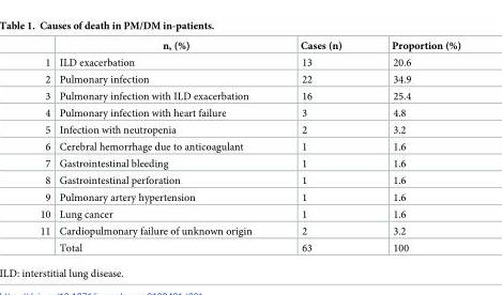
<table><thead><tr><td></td><td>n, (%)</td><td>Cases (n)</td><td>Proportion (%)</td></tr></thead><tbody><tr><td>1</td><td>ILD exacerbation</td><td>13</td><td>20.6</td></tr><tr><td>2</td><td>Pulmonary infection</td><td>22</td><td>34.9</td></tr><tr><td>3</td><td>Pulmonary infection with ILD exacerbation</td><td>16</td><td>25.4</td></tr><tr><td>4</td><td>Pulmonary infection with heart failure</td><td>3</td><td>4.8</td></tr><tr><td>5</td><td>Infection with neutropenia</td><td>2</td><td>3.2</td></tr><tr><td>6</td><td>Cerebral hemorrhage due to anticoagulant</td><td>1</td><td>1.6</td></tr><tr><td>7</td><td>Gastrointestinal bleeding</td><td>1</td><td>1.6</td></tr><tr><td>8</td><td>Gastrointestinal perforation</td><td>1</td><td>1.6</td></tr><tr><td>9</td><td>Pulmonary artery hypertension</td><td>1</td><td>1.6</td></tr><tr><td>10</td><td>Lung cancer</td><td>1</td><td>1.6</td></tr><tr><td rowspan="2">11</td><td>Cardiopulmonary failure of unknown origin</td><td>2</td><td>3.2</td></tr><tr><td>Total</td><td>63</td><td>100</td></tr></tbody></table>